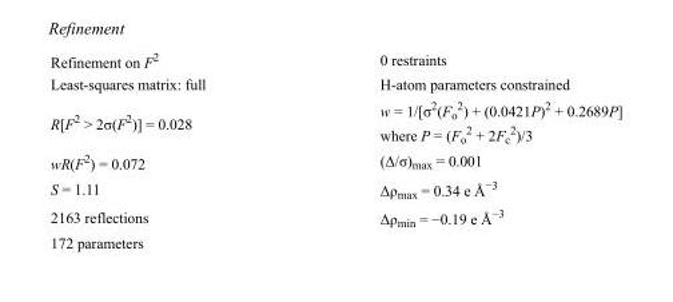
<table><tbody><tr><td>Refinement on F<sup>2</sup></td><td>0 restraints</td></tr><tr><td>Least-squares matrix: full</td><td>H-atom parameters constrained</td></tr><tr><td>R[F<sup>2</sup> &gt; 2σ(F<sup>2</sup>)] = 0.028</td><td>w = 1/[σ<sup>2</sup>(F<sub>o</sub> <sup>2</sup>) + (0.0421P)<sup>2</sup> + 0.2689P] where P = (F<sub>o</sub> <sup>2</sup> + 2F<sub>c</sub> <sup>2</sup>)/3</td></tr><tr><td>wR(F<sup>2</sup>) = 0.072</td><td>(Δ/σ)<sub>max</sub> = 0.001</td></tr><tr><td>S = 1.11</td><td>Δρ<sub>max</sub> = 0.34 e Å<sup>−3</sup></td></tr><tr><td>2163 reflections</td><td>Δρ<sub>min</sub> = −0.19 e Å<sup>−3</sup></td></tr><tr><td>172 parameters</td><td></td></tr></tbody></table>